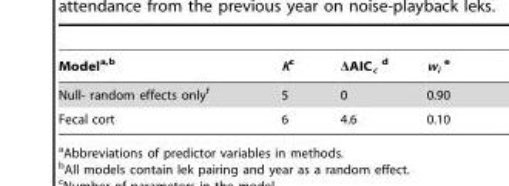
<table><thead><tr><td>Modela,b</td><td>Kc</td><td>ΔAIC<sub>c</sub> d</td><td>w<sub>i</sub> e</td></tr></thead><tbody><tr><td>Null- random effects only<sup>f</sup></td><td>5</td><td>0</td><td>0.90</td></tr><tr><td>Fecal cort</td><td>6</td><td>4.6</td><td>0.10</td></tr></tbody></table>